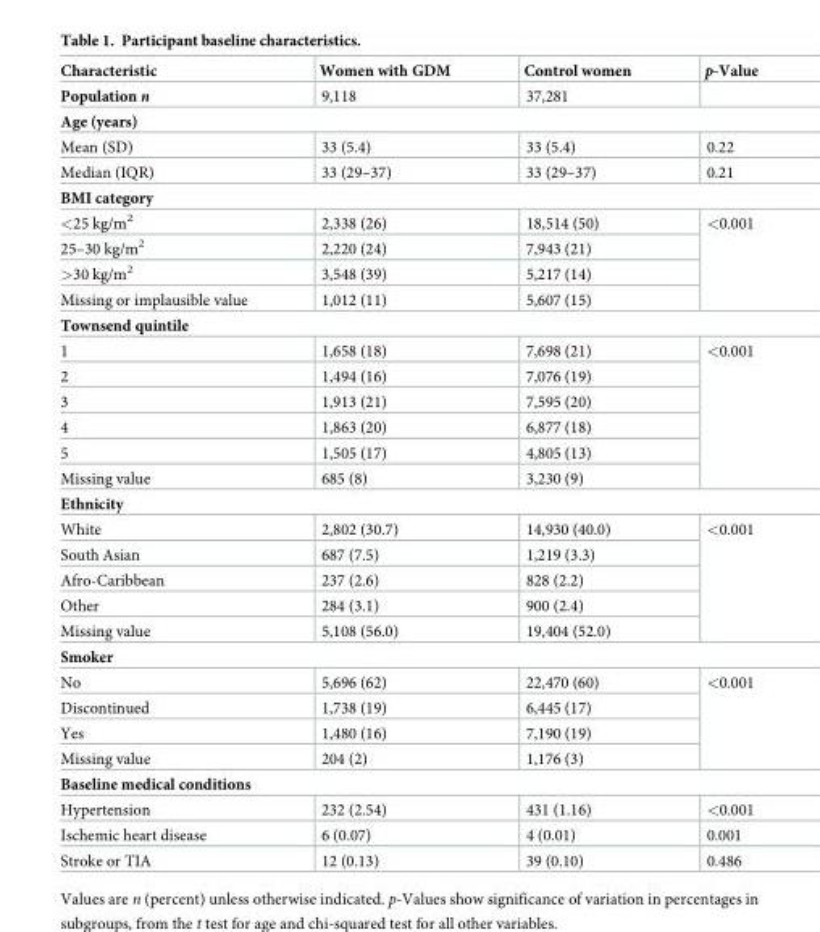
<table><thead><tr><td>Characteristic</td><td>Women with GDM</td><td>Control women</td><td>p-Value</td></tr></thead><tbody><tr><td>Population n</td><td>9,118</td><td>37,281</td><td></td></tr><tr><td colspan="4">Age (years)</td></tr><tr><td>Mean (SD)</td><td>33 (5.4)</td><td>33 (5.4)</td><td>0.22</td></tr><tr><td>Median (IQR)</td><td>33 (29–37)</td><td>33 (29–37)</td><td>0.21</td></tr><tr><td colspan="4">BMI category</td></tr><tr><td>&lt;25 kg/m<sup>2</sup></td><td>2,338 (26)</td><td>18,514 (50)</td><td rowspan="4">&lt;0.001</td></tr><tr><td>25–30 kg/m<sup>2</sup></td><td>2,220 (24)</td><td>7,943 (21)</td></tr><tr><td>&gt;30 kg/m<sup>2</sup></td><td>3,548 (39)</td><td>5,217 (14)</td></tr><tr><td>Missing or implausible value</td><td>1,012 (11)</td><td>5,607 (15)</td></tr><tr><td colspan="4">Townsend quintile</td></tr><tr><td>1</td><td>1,658 (18)</td><td>7,698 (21)</td><td rowspan="6">&lt;0.001</td></tr><tr><td>2</td><td>1,494 (16)</td><td>7,076 (19)</td></tr><tr><td>3</td><td>1,913 (21)</td><td>7,595 (20)</td></tr><tr><td>4</td><td>1,863 (20)</td><td>6,877 (18)</td></tr><tr><td>5</td><td>1,505 (17)</td><td>4,805 (13)</td></tr><tr><td>Missing value</td><td>685 (8)</td><td>3,230 (9)</td></tr><tr><td colspan="4">Ethnicity</td></tr><tr><td>White</td><td>2,802 (30.7)</td><td>14,930 (40.0)</td><td rowspan="5">&lt;0.001</td></tr><tr><td>South Asian</td><td>687 (7.5)</td><td>1,219 (3.3)</td></tr><tr><td>Afro-Caribbean</td><td>237 (2.6)</td><td>828 (2.2)</td></tr><tr><td>Other</td><td>284 (3.1)</td><td>900 (2.4)</td></tr><tr><td>Missing value</td><td>5,108 (56.0)</td><td>19,404 (52.0)</td></tr><tr><td colspan="4">Smoker</td></tr><tr><td>No</td><td>5,696 (62)</td><td>22,470 (60)</td><td rowspan="4">&lt;0.001</td></tr><tr><td>Discontinued</td><td>1,738 (19)</td><td>6,445 (17)</td></tr><tr><td>Yes</td><td>1,480 (16)</td><td>7,190 (19)</td></tr><tr><td>Missing value</td><td>204 (2)</td><td>1,176 (3)</td></tr><tr><td colspan="4">Baseline medical conditions</td></tr><tr><td>Hypertension</td><td>232 (2.54)</td><td>431 (1.16)</td><td>&lt;0.001</td></tr><tr><td>Ischemic heart disease</td><td>6 (0.07)</td><td>4 (0.01)</td><td>0.001</td></tr><tr><td>Stroke or TIA</td><td>12 (0.13)</td><td>39 (0.10)</td><td>0.486</td></tr></tbody></table>